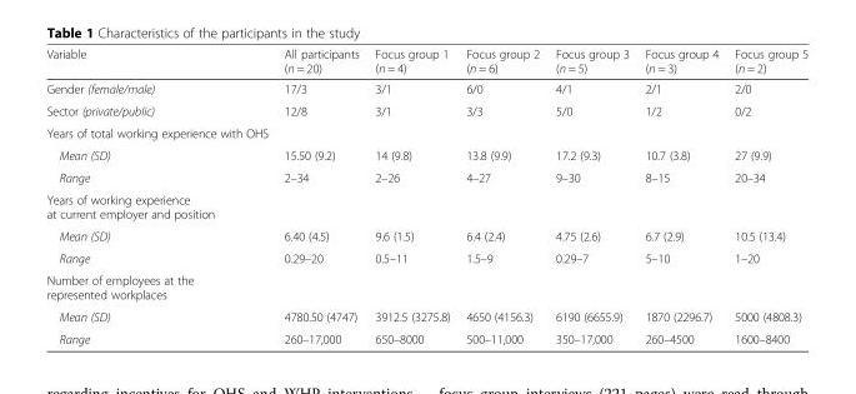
<table><thead><tr><td>Variable</td><td>All participants (n = 20)</td><td>Focus group 1 (n = 4)</td><td>Focus group 2 (n = 6)</td><td>Focus group 3 (n = 5)</td><td>Focus group 4 (n = 3)</td><td>Focus group 5 (n = 2)</td></tr></thead><tbody><tr><td>Gender (female/male)</td><td>17/3</td><td>3/1</td><td>6/0</td><td>4/1</td><td>2/1</td><td>2/0</td></tr><tr><td>Sector (private/public)</td><td>12/8</td><td>3/1</td><td>3/3</td><td>5/0</td><td>1/2</td><td>0/2</td></tr><tr><td colspan="7">Years of total working experience with OHS</td></tr><tr><td>Mean (SD)</td><td>15.50 (9.2)</td><td>14 (9.8)</td><td>13.8 (9.9)</td><td>17.2 (9.3)</td><td>10.7 (3.8)</td><td>27 (9.9)</td></tr><tr><td>Range</td><td>2–34</td><td>2–26</td><td>4–27</td><td>9–30</td><td>8–15</td><td>20–34</td></tr><tr><td colspan="7">Years of working experience at current employer and position</td></tr><tr><td>Mean (SD)</td><td>6.40 (4.5)</td><td>9.6 (1.5)</td><td>6.4 (2.4)</td><td>4.75 (2.6)</td><td>6.7 (2.9)</td><td>10.5 (13.4)</td></tr><tr><td>Range</td><td>0.29–20</td><td>0.5–11</td><td>1.5–9</td><td>0.29–7</td><td>5–10</td><td>1–20</td></tr><tr><td colspan="7">Number of employees at the represented workplaces</td></tr><tr><td>Mean (SD)</td><td>4780.50 (4747)</td><td>3912.5 (3275.8)</td><td>4650 (4156.3)</td><td>6190 (6655.9)</td><td>1870 (2296.7)</td><td>5000 (4808.3)</td></tr><tr><td>Range</td><td>260–17,000</td><td>650–8000</td><td>500–11,000</td><td>350–17,000</td><td>260–4500</td><td>1600–8400</td></tr></tbody></table>